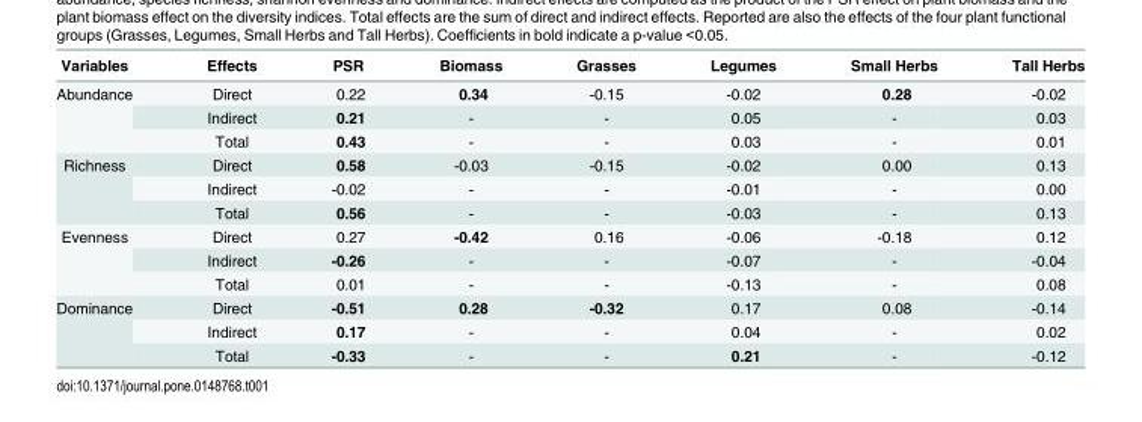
<table><thead><tr><td>Variables</td><td>Effects</td><td>PSR</td><td>Biomass</td><td>Grasses</td><td>Legumes</td><td>Small Herbs</td><td>Tall Herbs</td></tr></thead><tbody><tr><td rowspan="3">Abundance</td><td>Direct</td><td>0.22</td><td>0.34</td><td>-0.15</td><td>-0.02</td><td>0.28</td><td>-0.02</td></tr><tr><td>Indirect</td><td>0.21</td><td>-</td><td>-</td><td>0.05</td><td>-</td><td>0.03</td></tr><tr><td>Total</td><td>0.43</td><td>-</td><td>-</td><td>0.03</td><td>-</td><td>0.01</td></tr><tr><td rowspan="3">Richness</td><td>Direct</td><td>0.58</td><td>-0.03</td><td>-0.15</td><td>-0.02</td><td>0.00</td><td>0.13</td></tr><tr><td>Indirect</td><td>-0.02</td><td>-</td><td>-</td><td>-0.01</td><td>-</td><td>0.00</td></tr><tr><td>Total</td><td>0.56</td><td>-</td><td>-</td><td>-0.03</td><td>-</td><td>0.13</td></tr><tr><td rowspan="3">Evenness</td><td>Direct</td><td>0.27</td><td>-0.42</td><td>0.16</td><td>-0.06</td><td>-0.18</td><td>0.12</td></tr><tr><td>Indirect</td><td>-0.26</td><td>-</td><td>-</td><td>-0.07</td><td>-</td><td>-0.04</td></tr><tr><td>Total</td><td>0.01</td><td>-</td><td>-</td><td>-0.13</td><td>-</td><td>0.08</td></tr><tr><td rowspan="3">Dominance</td><td>Direct</td><td>-0.51</td><td>0.28</td><td>-0.32</td><td>0.17</td><td>0.08</td><td>-0.14</td></tr><tr><td>Indirect</td><td>0.17</td><td>-</td><td>-</td><td>0.04</td><td>-</td><td>0.02</td></tr><tr><td>Total</td><td>-0.33</td><td>-</td><td>-</td><td>0.21</td><td>-</td><td>-0.12</td></tr></tbody></table>